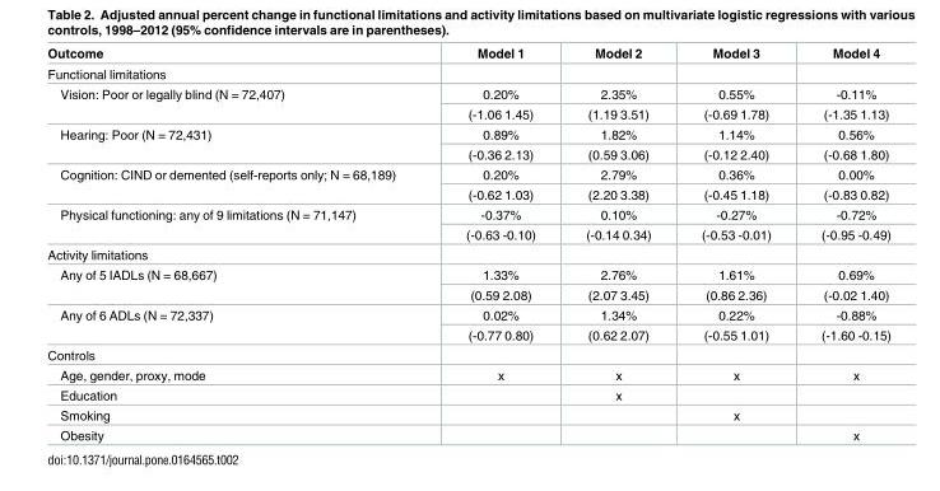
<table><thead><tr><td>Outcome</td><td>Model 1</td><td>Model 2</td><td>Model 3</td><td>Model 4</td></tr></thead><tbody><tr><td colspan="5">Functional limitations</td></tr><tr><td rowspan="2">Vision: Poor or legally blind (N = 72,407)</td><td>0.20%</td><td>2.35%</td><td>0.55%</td><td>-0.11%</td></tr><tr><td>(-1.06 1.45)</td><td>(1.19 3.51)</td><td>(-0.69 1.78)</td><td>(-1.35 1.13)</td></tr><tr><td rowspan="2">Hearing: Poor (N = 72,431)</td><td>0.89%</td><td>1.82%</td><td>1.14%</td><td>0.56%</td></tr><tr><td>(-0.36 2.13)</td><td>(0.59 3.06)</td><td>(-0.12 2.40)</td><td>(-0.68 1.80)</td></tr><tr><td rowspan="2">Cognition: CIND or demented (self-reports only; N = 68,189)</td><td>0.20%</td><td>2.79%</td><td>0.36%</td><td>0.00%</td></tr><tr><td>(-0.62 1.03)</td><td>(2.20 3.38)</td><td>(-0.45 1.18)</td><td>(-0.83 0.82)</td></tr><tr><td rowspan="2">Physical functioning: any of 9 limitations (N = 71,147)</td><td>-0.37%</td><td>0.10%</td><td>-0.27%</td><td>-0.72%</td></tr><tr><td>(-0.63 -0.10)</td><td>(-0.14 0.34)</td><td>(-0.53 -0.01)</td><td>(-0.95 -0.49)</td></tr><tr><td colspan="5">Activity limitations</td></tr><tr><td rowspan="2">Any of 5 IADLs (N = 68,667)</td><td>1.33%</td><td>2.76%</td><td>1.61%</td><td>0.69%</td></tr><tr><td>(0.59 2.08)</td><td>(2.07 3.45)</td><td>(0.86 2.36)</td><td>(-0.02 1.40)</td></tr><tr><td rowspan="2">Any of 6 ADLs (N = 72,337)</td><td>0.02%</td><td>1.34%</td><td>0.22%</td><td>-0.88%</td></tr><tr><td>(-0.77 0.80)</td><td>(0.62 2.07)</td><td>(-0.55 1.01)</td><td>(-1.60 -0.15)</td></tr><tr><td colspan="5">Controls</td></tr><tr><td>Age, gender, proxy, mode</td><td>x</td><td>x</td><td>x</td><td>x</td></tr><tr><td>Education</td><td></td><td>x</td><td></td><td></td></tr><tr><td>Smoking</td><td></td><td></td><td>x</td><td></td></tr><tr><td>Obesity</td><td></td><td></td><td></td><td>x</td></tr></tbody></table>